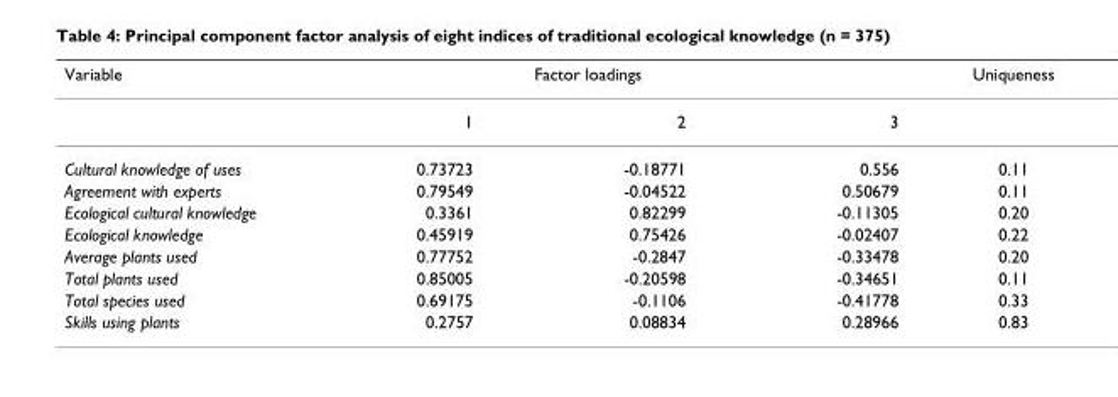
<table><thead><tr><td rowspan="2">Variable</td><td colspan="3">Factor loadings</td><td rowspan="2">Uniqueness</td></tr><tr><td>1</td><td>2</td><td>3</td></tr></thead><tbody><tr><td>Cultural knowledge of uses</td><td>0.73723</td><td>-0.18771</td><td>0.556</td><td>0.11</td></tr><tr><td>Agreement with experts</td><td>0.79549</td><td>-0.04522</td><td>0.50679</td><td>0.11</td></tr><tr><td>Ecological cultural knowledge</td><td>0.3361</td><td>0.82299</td><td>-0.11305</td><td>0.20</td></tr><tr><td>Ecological knowledge</td><td>0.45919</td><td>0.75426</td><td>-0.02407</td><td>0.22</td></tr><tr><td>Average plants used</td><td>0.77752</td><td>-0.2847</td><td>-0.33478</td><td>0.20</td></tr><tr><td>Total plants used</td><td>0.85005</td><td>-0.20598</td><td>-0.34651</td><td>0.11</td></tr><tr><td>Total species used</td><td>0.69175</td><td>-0.1106</td><td>-0.41778</td><td>0.33</td></tr><tr><td>Skills using plants</td><td>0.2757</td><td>0.08834</td><td>0.28966</td><td>0.83</td></tr></tbody></table>